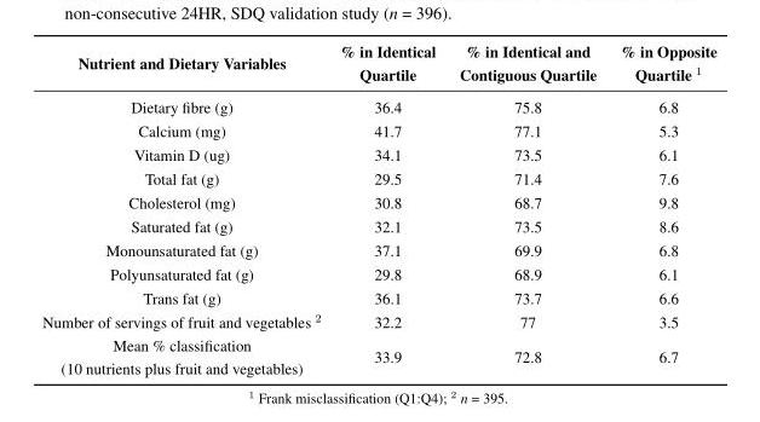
<table><thead><tr><td>Nutrient and Dietary Variables</td><td>% in Identical Quartile</td><td>% in Identical and Contiguous Quartile</td><td>% in Opposite Quartile <sup>1</sup></td></tr></thead><tbody><tr><td>Dietary fibre (g)</td><td>36.4</td><td>75.8</td><td>6.8</td></tr><tr><td>Calcium (mg)</td><td>41.7</td><td>77.1</td><td>5.3</td></tr><tr><td>Vitamin D (ug)</td><td>34.1</td><td>73.5</td><td>6.1</td></tr><tr><td>Total fat (g)</td><td>29.5</td><td>71.4</td><td>7.6</td></tr><tr><td>Cholesterol (mg)</td><td>30.8</td><td>68.7</td><td>9.8</td></tr><tr><td>Saturated fat (g)</td><td>32.1</td><td>73.5</td><td>8.6</td></tr><tr><td>Monounsaturated fat (g)</td><td>37.1</td><td>69.9</td><td>6.8</td></tr><tr><td>Polyunsaturated fat (g)</td><td>29.8</td><td>68.9</td><td>6.1</td></tr><tr><td>Trans fat (g)</td><td>36.1</td><td>73.7</td><td>6.6</td></tr><tr><td>Number of servings of fruit and vegetables <sup>2</sup></td><td>32.2</td><td>77</td><td>3.5</td></tr><tr><td>Mean % classification (10 nutrients plus fruit and vegetables)</td><td>33.9</td><td>72.8</td><td>6.7</td></tr></tbody></table>